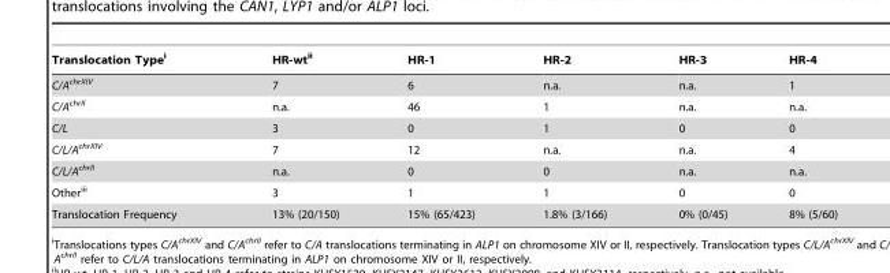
<table><thead><tr><td>Translocation Type<sup>i</sup></td><td>HR-wt<sup>ii</sup></td><td>HR-1</td><td>HR-2</td><td>HR-3</td><td>HR-4</td></tr></thead><tbody><tr><td>C/A<sup>chrXIV</sup></td><td>7</td><td>6</td><td>n.a.</td><td>n.a.</td><td>1</td></tr><tr><td>C/A<sup>chrII</sup></td><td>n.a.</td><td>46</td><td>1</td><td>n.a.</td><td>n.a.</td></tr><tr><td>C/L</td><td>3</td><td>0</td><td>1</td><td>0</td><td>0</td></tr><tr><td>C/L/A<sup>chrXIV</sup></td><td>7</td><td>12</td><td>n.a.</td><td>n.a.</td><td>4</td></tr><tr><td>C/L/A<sup>chrII</sup></td><td>n.a.</td><td>0</td><td>0</td><td>n.a.</td><td>n.a.</td></tr><tr><td>Otheriii</td><td>3</td><td>1</td><td>1</td><td>0</td><td>0</td></tr><tr><td>Translocation Frequency</td><td>13% (20/150)</td><td>15% (65/423)</td><td>1.8% (3/166)</td><td>0% (0/45)</td><td>8% (5/60)</td></tr></tbody></table>